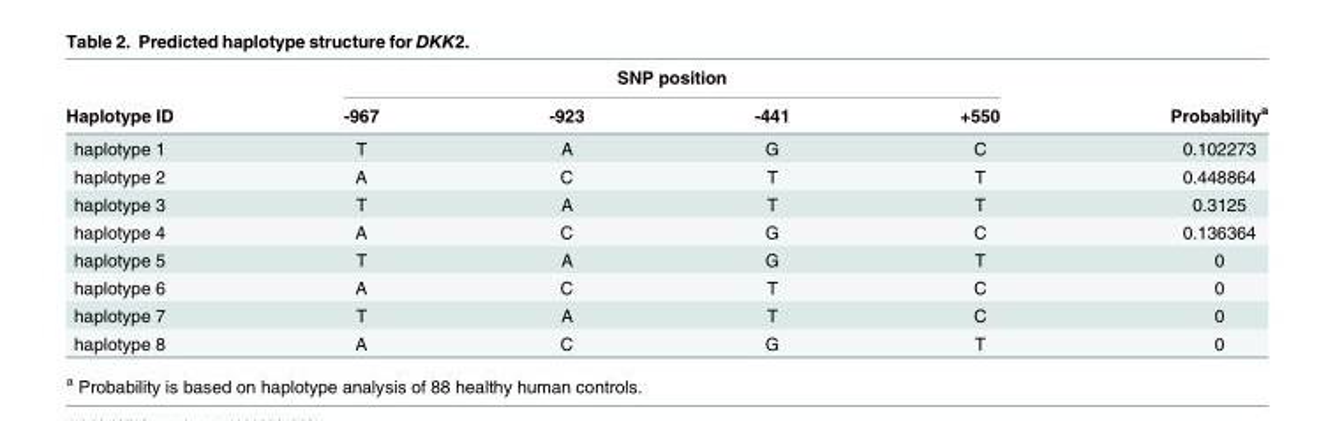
<table><thead><tr><td rowspan="2">Haplotype ID</td><td colspan="4">SNP position</td><td rowspan="2">Probability<sup>a</sup></td></tr><tr><td>-967</td><td>-923</td><td>-441</td><td>+550</td></tr></thead><tbody><tr><td>haplotype 1</td><td>T</td><td>A</td><td>G</td><td>C</td><td>0.102273</td></tr><tr><td>haplotype 2</td><td>A</td><td>C</td><td>T</td><td>T</td><td>0.448864</td></tr><tr><td>haplotype 3</td><td>T</td><td>A</td><td>T</td><td>T</td><td>0.3125</td></tr><tr><td>haplotype 4</td><td>A</td><td>C</td><td>G</td><td>C</td><td>0.136364</td></tr><tr><td>haplotype 5</td><td>T</td><td>A</td><td>G</td><td>T</td><td>0</td></tr><tr><td>haplotype 6</td><td>A</td><td>C</td><td>T</td><td>C</td><td>0</td></tr><tr><td>haplotype 7</td><td>T</td><td>A</td><td>T</td><td>C</td><td>0</td></tr><tr><td>haplotype 8</td><td>A</td><td>C</td><td>G</td><td>T</td><td>0</td></tr></tbody></table>